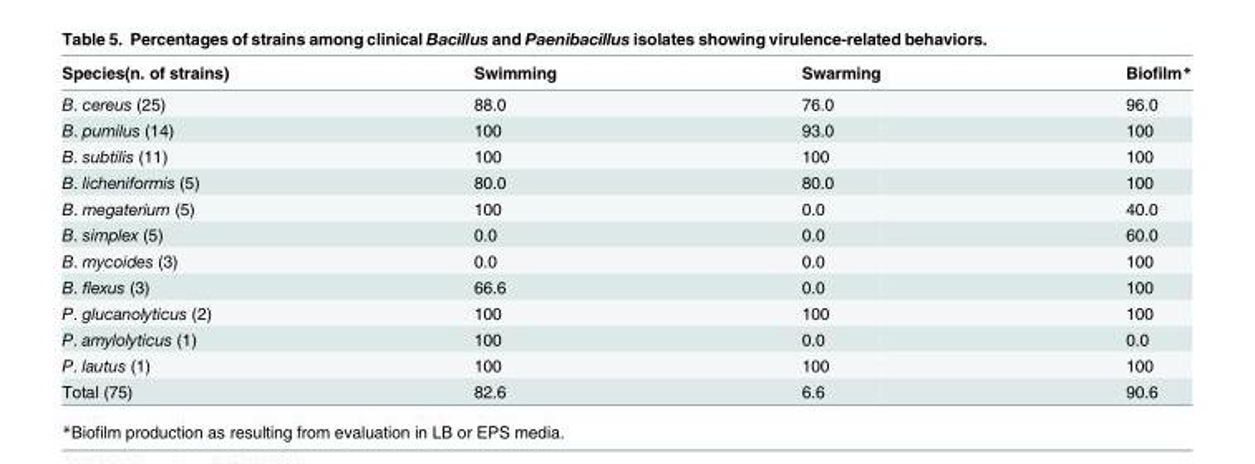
<table><thead><tr><td>Species(n. of strains)</td><td>Swimming</td><td>Swarming</td><td>Biofilm*</td></tr></thead><tbody><tr><td>B. cereus (25)</td><td>88.0</td><td>76.0</td><td>96.0</td></tr><tr><td>B. pumilus (14)</td><td>100</td><td>93.0</td><td>100</td></tr><tr><td>B. subtilis (11)</td><td>100</td><td>100</td><td>100</td></tr><tr><td>B. licheniformis (5)</td><td>80.0</td><td>80.0</td><td>100</td></tr><tr><td>B. megaterium (5)</td><td>100</td><td>0.0</td><td>40.0</td></tr><tr><td>B. simplex (5)</td><td>0.0</td><td>0.0</td><td>60.0</td></tr><tr><td>B. mycoides (3)</td><td>0.0</td><td>0.0</td><td>100</td></tr><tr><td>B. flexus (3)</td><td>66.6</td><td>0.0</td><td>100</td></tr><tr><td>P. glucanolyticus (2)</td><td>100</td><td>100</td><td>100</td></tr><tr><td>P. amylolyticus (1)</td><td>100</td><td>0.0</td><td>0.0</td></tr><tr><td>P. lautus (1)</td><td>100</td><td>100</td><td>100</td></tr><tr><td>Total (75)</td><td>82.6</td><td>6.6</td><td>90.6</td></tr></tbody></table>